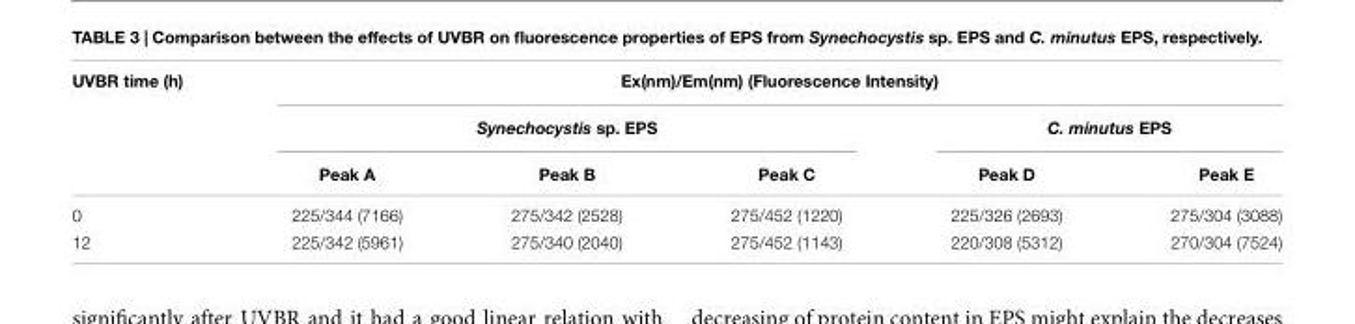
<table><thead><tr><td rowspan="3">UVBR time (h)</td><td colspan="5">Ex(nm)/Em(nm) (Fluorescence Intensity)</td></tr><tr><td colspan="3">Synechocystis sp. EPS</td><td colspan="2">C. minutus EPS</td></tr><tr><td>Peak A</td><td>Peak B</td><td>Peak C</td><td>Peak D</td><td>Peak E</td></tr></thead><tbody><tr><td>0</td><td>225/344 (7166)</td><td>275/342 (2528)</td><td>275/452 (1220)</td><td>225/326 (2693)</td><td>275/304 (3088)</td></tr><tr><td>12</td><td>225/342 (5961)</td><td>275/340 (2040)</td><td>275/452 (1143)</td><td>220/308 (5312)</td><td>270/304 (7524)</td></tr></tbody></table>